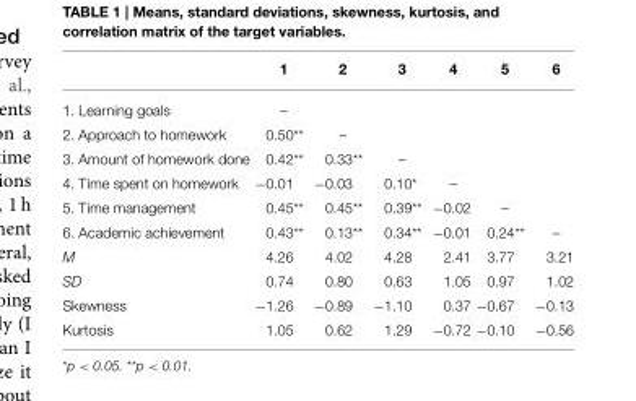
<table><thead><tr><td></td><td>1</td><td>2</td><td>3</td><td>4</td><td>5</td><td>6</td></tr></thead><tbody><tr><td>1. Learning goals</td><td>–</td><td></td><td></td><td></td><td></td><td></td></tr><tr><td>2. Approach to homework</td><td>0.50**</td><td>–</td><td></td><td></td><td></td><td></td></tr><tr><td>3. Amount of homework done</td><td>0.42**</td><td>0.33**</td><td>–</td><td></td><td></td><td></td></tr><tr><td>4. Time spent on homework</td><td>−0.01</td><td>−0.03</td><td>0.10*</td><td>–</td><td></td><td></td></tr><tr><td>5. Time management</td><td>0.45**</td><td>0.45**</td><td>0.39**</td><td>−0.02</td><td>–</td><td></td></tr><tr><td>6. Academic achievement</td><td>0.43**</td><td>0.13**</td><td>0.34**</td><td>−0.01</td><td>0.24**</td><td>–</td></tr><tr><td>M</td><td>4.26</td><td>4.02</td><td>4.28</td><td>2.41</td><td>3.77</td><td>3.21</td></tr><tr><td>SD</td><td>0.74</td><td>0.80</td><td>0.63</td><td>1.05</td><td>0.97</td><td>1.02</td></tr><tr><td>Skewness</td><td>−1.26</td><td>−0.89</td><td>−1.10</td><td>0.37</td><td>−0.67</td><td>−0.13</td></tr><tr><td>Kurtosis</td><td>1.05</td><td>0.62</td><td>1.29</td><td>−0.72</td><td>−0.10</td><td>−0.56</td></tr></tbody></table>